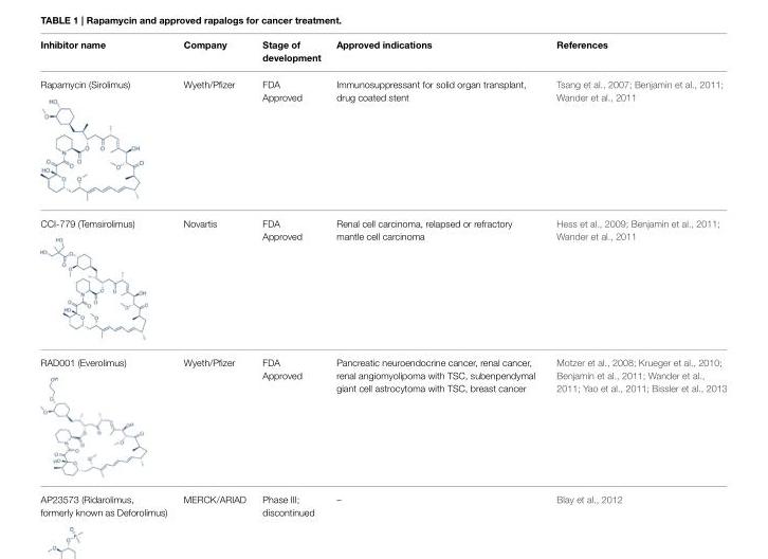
<table><thead><tr><td>Inhibitor name</td><td>Company</td><td>Stage of development</td><td>Approved indications</td><td>References</td></tr></thead><tbody><tr><td>Rapamycin (Sirolimus)</td><td>Wyeth/Pfizer</td><td>FDA Approved</td><td>Immunosuppressant for solid organ transplant, drug coated stent</td><td>Tsang et al., 2007; Benjamin et al., 2011; Wander et al., 2011</td></tr><tr><td>CCI-779 (Temsirolimus)</td><td>Novartis</td><td>FDA Approved</td><td>Renal cell carcinoma, relapsed or refractory mantle cell carcinoma</td><td>Hess et al., 2009; Benjamin et al., 2011; Wander et al., 2011</td></tr><tr><td>RAD001 (Everolimus)</td><td>Wyeth/Pfizer</td><td>FDA Approved</td><td>Pancreatic neuroendocrine cancer, renal cancer, renal angiomyolipoma with TSC, subenpendymal giant cell astrocytoma with TSC, breast cancer</td><td>Motzer et al., 2008; Krueger et al., 2010; Benjamin et al., 2011; Wander et al., 2011; Yao et al., 2011; Bissler et al., 2013</td></tr><tr><td>AP23573 (Ridarolimus, formerly known as Deforolimus)</td><td>MERCK/ARIAD</td><td>Phase III; discontinued</td><td>–</td><td>Blay et al., 2012</td></tr></tbody></table>